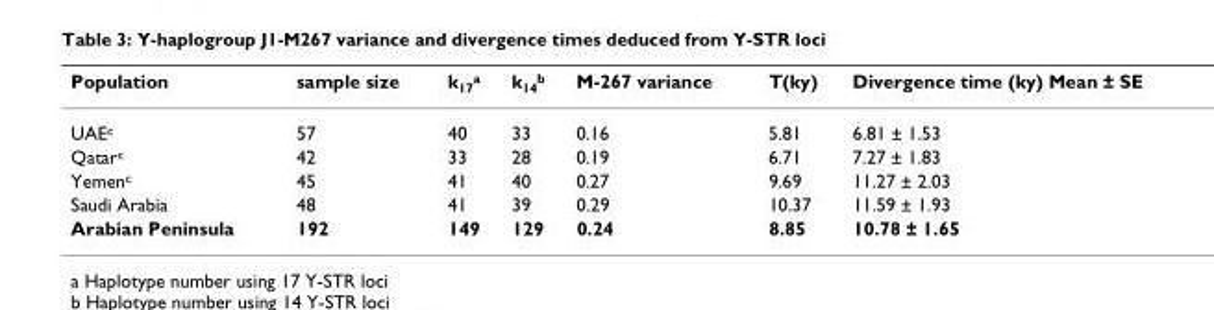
<table><thead><tr><td>Population</td><td>sample size</td><td>k<sub>17</sub><sup>a</sup></td><td>k<sub>14</sub><sup>b</sup></td><td>M-267 variance</td><td>T(ky)</td><td>Divergence time (ky) Mean ± SE</td></tr></thead><tbody><tr><td>UAE<sup>c</sup></td><td>57</td><td>40</td><td>33</td><td>0.16</td><td>5.81</td><td>6.81 ± 1.53</td></tr><tr><td>Qatar<sup>c</sup></td><td>42</td><td>33</td><td>28</td><td>0.19</td><td>6.71</td><td>7.27 ± 1.83</td></tr><tr><td>Yemen<sup>c</sup></td><td>45</td><td>41</td><td>40</td><td>0.27</td><td>9.69</td><td>11.27 ± 2.03</td></tr><tr><td>Saudi Arabia</td><td>48</td><td>41</td><td>39</td><td>0.29</td><td>10.37</td><td>11.59 ± 1.93</td></tr><tr><td>Arabian Peninsula</td><td>192</td><td>149</td><td>129</td><td>0.24</td><td>8.85</td><td>10.78 ± 1.65</td></tr></tbody></table>